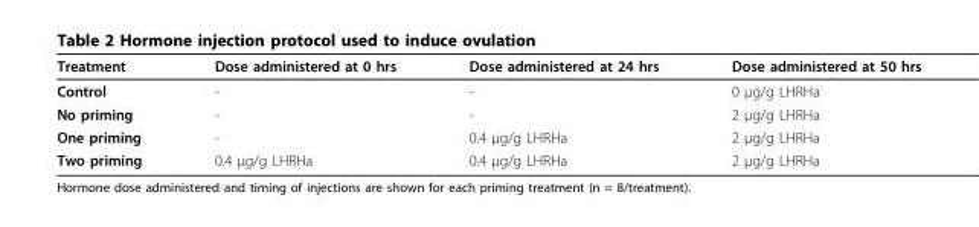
<table><thead><tr><td>Treatment</td><td>Dose administered at 0 hrs</td><td>Dose administered at 24 hrs</td><td>Dose administered at 50 hrs</td></tr></thead><tbody><tr><td>Control</td><td>-</td><td>-</td><td>0 μg/g LHRHa</td></tr><tr><td>No priming</td><td>-</td><td>-</td><td>2 μg/g LHRHa</td></tr><tr><td>One priming</td><td>-</td><td>0.4 μg/g LHRHa</td><td>2 μg/g LHRHa</td></tr><tr><td>Two priming</td><td>0.4 μg/g LHRHa</td><td>0.4 μg/g LHRHa</td><td>2 μg/g LHRHa</td></tr></tbody></table>